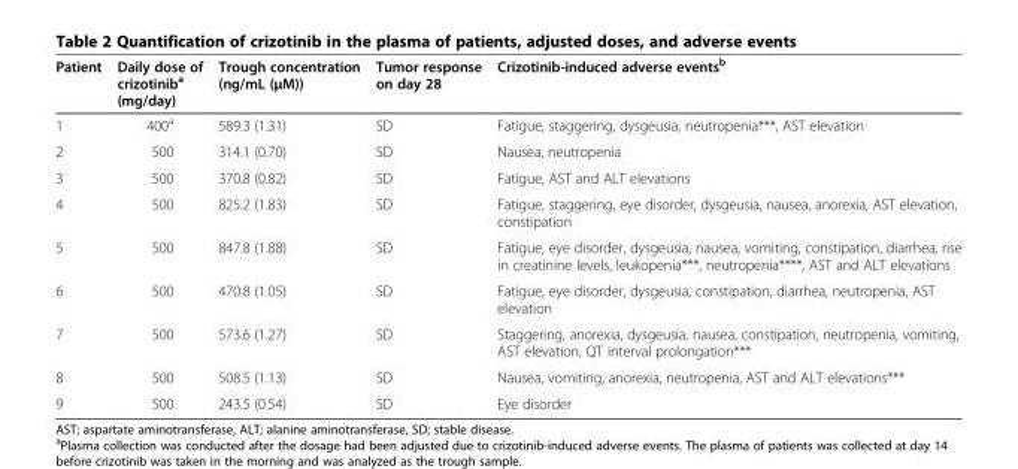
<table><thead><tr><td>Patient</td><td>Daily dose of crizotinib<sup>a</sup> (mg/day)</td><td>Trough concentration (ng/mL (μM))</td><td>Tumor response on day 28</td><td>Crizotinib-induced adverse events<sup>b</sup></td></tr></thead><tbody><tr><td>1</td><td>400<sup>a</sup></td><td>589.3 (1.31)</td><td>SD</td><td>Fatigue, staggering, dysgeusia, neutropenia***, AST elevation</td></tr><tr><td>2</td><td>500</td><td>314.1 (0.70)</td><td>SD</td><td>Nausea, neutropenia</td></tr><tr><td>3</td><td>500</td><td>370.8 (0.82)</td><td>SD</td><td>Fatigue, AST and ALT elevations</td></tr><tr><td>4</td><td>500</td><td>825.2 (1.83)</td><td>SD</td><td>Fatigue, staggering, eye disorder, dysgeusia, nausea, anorexia, AST elevation, constipation</td></tr><tr><td>5</td><td>500</td><td>847.8 (1.88)</td><td>SD</td><td>Fatigue, eye disorder, dysgeusia, nausea, vomiting, constipation, diarrhea, rise in creatinine levels, leukopenia***, neutropenia****, AST and ALT elevations</td></tr><tr><td>6</td><td>500</td><td>470.8 (1.05)</td><td>SD</td><td>Fatigue, eye disorder, dysgeusia, constipation, diarrhea, neutropenia, AST elevation</td></tr><tr><td>7</td><td>500</td><td>573.6 (1.27)</td><td>SD</td><td>Staggering, anorexia, dysgeusia, nausea, constipation, neutropenia, vomiting, AST elevation, QT interval prolongation***</td></tr><tr><td>8</td><td>500</td><td>508.5 (1.13)</td><td>SD</td><td>Nausea, vomiting, anorexia, neutropenia, AST and ALT elevations***</td></tr><tr><td>9</td><td>500</td><td>243.5 (0.54)</td><td>SD</td><td>Eye disorder</td></tr></tbody></table>